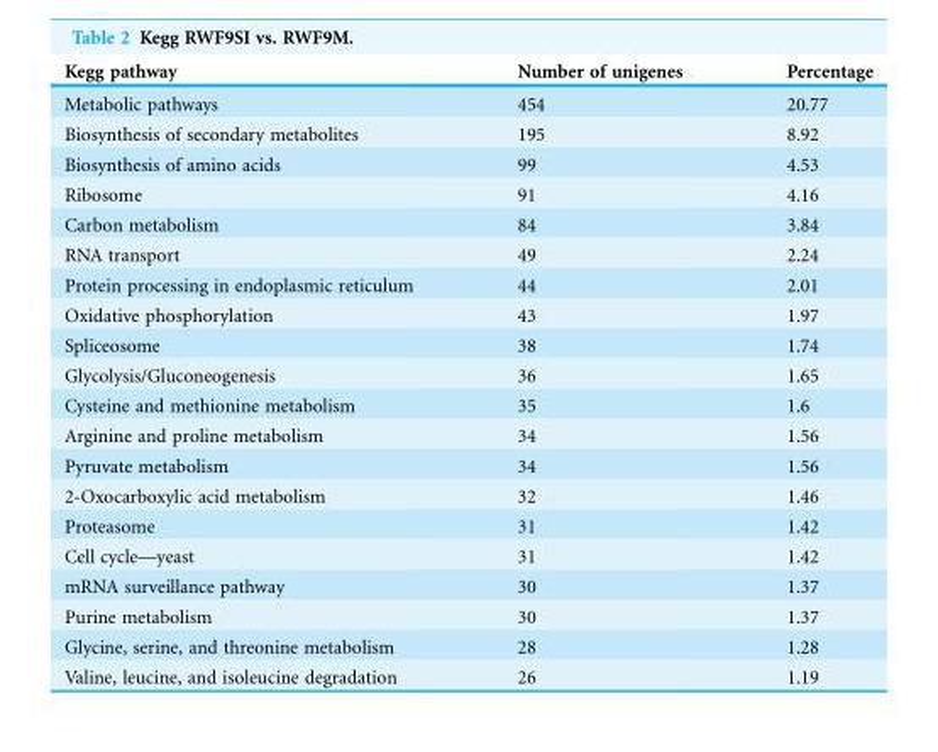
<table><thead><tr><td>Kegg pathway</td><td>Number of unigenes</td><td>Percentage</td></tr></thead><tbody><tr><td>Metabolic pathways</td><td>454</td><td>20.77</td></tr><tr><td>Biosynthesis of secondary metabolites</td><td>195</td><td>8.92</td></tr><tr><td>Biosynthesis of amino acids</td><td>99</td><td>4.53</td></tr><tr><td>Ribosome</td><td>91</td><td>4.16</td></tr><tr><td>Carbon metabolism</td><td>84</td><td>3.84</td></tr><tr><td>RNA transport</td><td>49</td><td>2.24</td></tr><tr><td>Protein processing in endoplasmic reticulum</td><td>44</td><td>2.01</td></tr><tr><td>Oxidative phosphorylation</td><td>43</td><td>1.97</td></tr><tr><td>Spliceosome</td><td>38</td><td>1.74</td></tr><tr><td>Glycolysis/Gluconeogenesis</td><td>36</td><td>1.65</td></tr><tr><td>Cysteine and methionine metabolism</td><td>35</td><td>1.6</td></tr><tr><td>Arginine and proline metabolism</td><td>34</td><td>1.56</td></tr><tr><td>Pyruvate metabolism</td><td>34</td><td>1.56</td></tr><tr><td>2-Oxocarboxylic acid metabolism</td><td>32</td><td>1.46</td></tr><tr><td>Proteasome</td><td>31</td><td>1.42</td></tr><tr><td>Cell cycle—yeast</td><td>31</td><td>1.42</td></tr><tr><td>mRNA surveillance pathway</td><td>30</td><td>1.37</td></tr><tr><td>Purine metabolism</td><td>30</td><td>1.37</td></tr><tr><td>Glycine, serine, and threonine metabolism</td><td>28</td><td>1.28</td></tr><tr><td>Valine, leucine, and isoleucine degradation</td><td>26</td><td>1.19</td></tr></tbody></table>